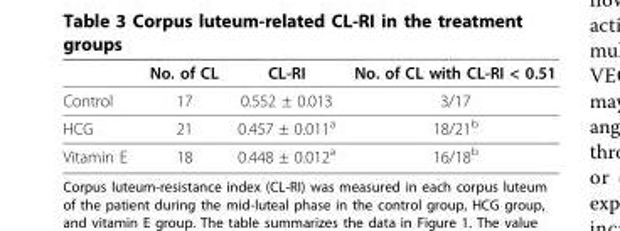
<table><thead><tr><td></td><td>No. of CL</td><td>CL-RI</td><td>No. of CL with CL-RI &lt; 0.51</td></tr></thead><tbody><tr><td>Control</td><td>17</td><td>0.552 ± 0.013</td><td>3/17</td></tr><tr><td>HCG</td><td>21</td><td>0.457 ± 0.011<sup>a</sup></td><td>18/21<sup>b</sup></td></tr><tr><td>Vitamin E</td><td>18</td><td>0.448 ± 0.012<sup>a</sup></td><td>16/18<sup>b</sup></td></tr></tbody></table>